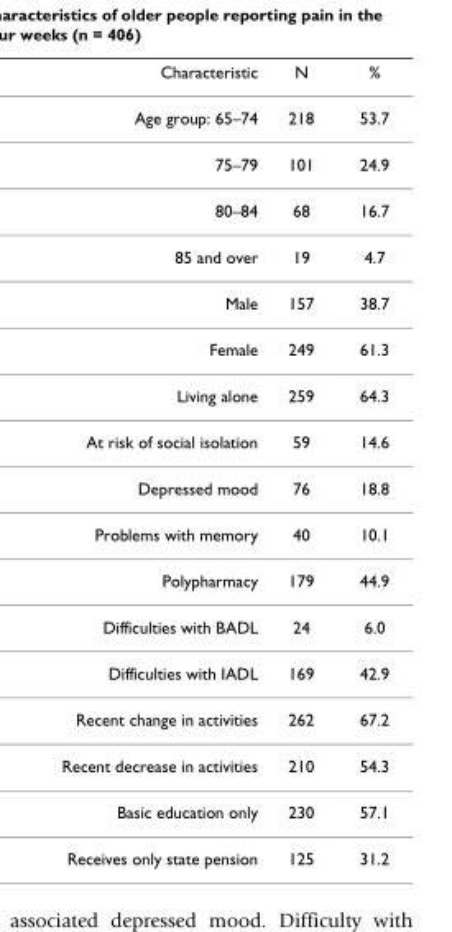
<table><thead><tr><td>Characteristic</td><td>N</td><td>%</td></tr></thead><tbody><tr><td>Age group: 65–74</td><td>218</td><td>53.7</td></tr><tr><td>75–79</td><td>101</td><td>24.9</td></tr><tr><td>80–84</td><td>68</td><td>16.7</td></tr><tr><td>85 and over</td><td>19</td><td>4.7</td></tr><tr><td>Male</td><td>157</td><td>38.7</td></tr><tr><td>Female</td><td>249</td><td>61.3</td></tr><tr><td>Living alone</td><td>259</td><td>64.3</td></tr><tr><td>At risk of social isolation</td><td>59</td><td>14.6</td></tr><tr><td>Depressed mood</td><td>76</td><td>18.8</td></tr><tr><td>Problems with memory</td><td>40</td><td>10.1</td></tr><tr><td>Polypharmacy</td><td>179</td><td>44.9</td></tr><tr><td>Difficulties with BADL</td><td>24</td><td>6.0</td></tr><tr><td>Difficulties with IADL</td><td>169</td><td>42.9</td></tr><tr><td>Recent change in activities</td><td>262</td><td>67.2</td></tr><tr><td>Recent decrease in activities</td><td>210</td><td>54.3</td></tr><tr><td>Basic education only</td><td>230</td><td>57.1</td></tr><tr><td>Receives only state pension</td><td>125</td><td>31.2</td></tr></tbody></table>